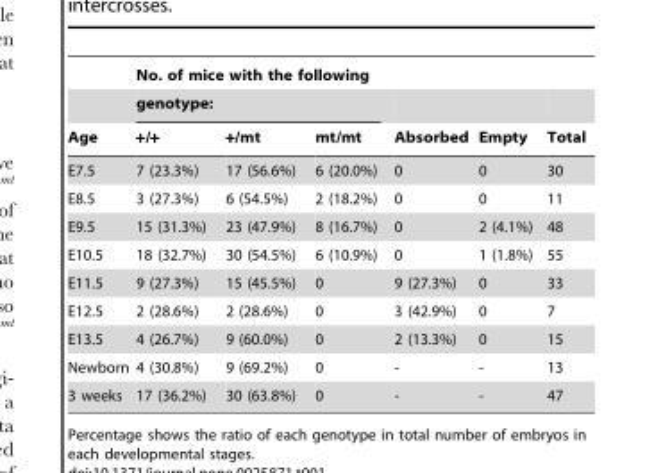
<table><thead><tr><td rowspan="3">Age</td><td rowspan="2" colspan="3">No. of mice with the following genotype:</td><td rowspan="3">Absorbed</td><td rowspan="3">Empty</td><td rowspan="3">Total</td></tr><tr></tr><tr><td>+/+</td><td>+/mt</td><td>mt/mt</td></tr></thead><tbody><tr><td>E7.5</td><td>7 (23.3%)</td><td>17 (56.6%)</td><td>6 (20.0%)</td><td>0</td><td>0</td><td>30</td></tr><tr><td>E8.5</td><td>3 (27.3%)</td><td>6 (54.5%)</td><td>2 (18.2%)</td><td>0</td><td>0</td><td>11</td></tr><tr><td>E9.5</td><td>15 (31.3%)</td><td>23 (47.9%)</td><td>8 (16.7%)</td><td>0</td><td>2 (4.1%)</td><td>48</td></tr><tr><td>E10.5</td><td>18 (32.7%)</td><td>30 (54.5%)</td><td>6 (10.9%)</td><td>0</td><td>1 (1.8%)</td><td>55</td></tr><tr><td>E11.5</td><td>9 (27.3%)</td><td>15 (45.5%)</td><td>0</td><td>9 (27.3%)</td><td>0</td><td>33</td></tr><tr><td>E12.5</td><td>2 (28.6%)</td><td>2 (28.6%)</td><td>0</td><td>3 (42.9%)</td><td>0</td><td>7</td></tr><tr><td>E13.5</td><td>4 (26.7%)</td><td>9 (60.0%)</td><td>0</td><td>2 (13.3%)</td><td>0</td><td>15</td></tr><tr><td>Newborn</td><td>4 (30.8%)</td><td>9 (69.2%)</td><td>0</td><td>-</td><td>-</td><td>13</td></tr><tr><td>3 weeks</td><td>17 (36.2%)</td><td>30 (63.8%)</td><td>0</td><td>-</td><td>-</td><td>47</td></tr></tbody></table>